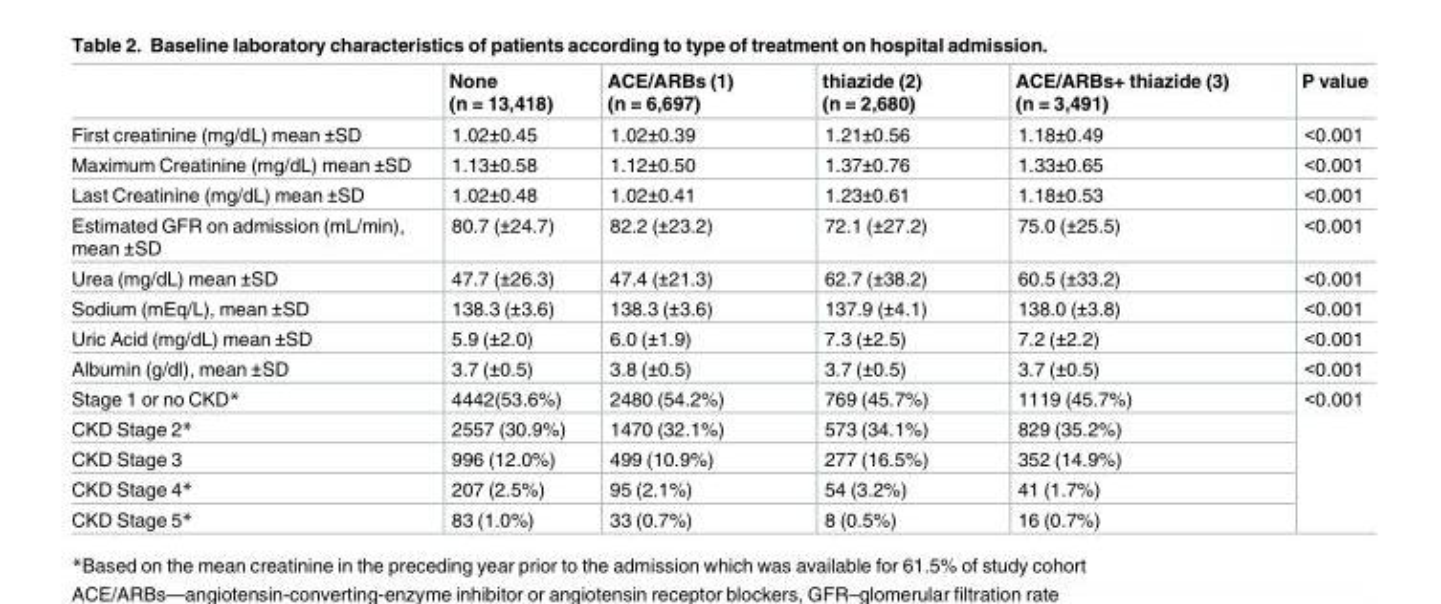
<table><thead><tr><td></td><td>None (n = 13,418)</td><td>ACE/ARBs (1) (n = 6,697)</td><td>thiazide (2) (n = 2,680)</td><td>ACE/ARBs+ thiazide (3) (n = 3,491)</td><td>P value</td></tr></thead><tbody><tr><td>First creatinine (mg/dL) mean ±SD</td><td>1.02±0.45</td><td>1.02±0.39</td><td>1.21±0.56</td><td>1.18±0.49</td><td>&lt;0.001</td></tr><tr><td>Maximum Creatinine (mg/dL) mean ±SD</td><td>1.13±0.58</td><td>1.12±0.50</td><td>1.37±0.76</td><td>1.33±0.65</td><td>&lt;0.001</td></tr><tr><td>Last Creatinine (mg/dL) mean ±SD</td><td>1.02±0.48</td><td>1.02±0.41</td><td>1.23±0.61</td><td>1.18±0.53</td><td>&lt;0.001</td></tr><tr><td>Estimated GFR on admission (mL/min), mean ±SD</td><td>80.7 (±24.7)</td><td>82.2 (±23.2)</td><td>72.1 (±27.2)</td><td>75.0 (±25.5)</td><td>&lt;0.001</td></tr><tr><td>Urea (mg/dL) mean ±SD</td><td>47.7 (±26.3)</td><td>47.4 (±21.3)</td><td>62.7 (±38.2)</td><td>60.5 (±33.2)</td><td>&lt;0.001</td></tr><tr><td>Sodium (mEq/L), mean ±SD</td><td>138.3 (±3.6)</td><td>138.3 (±3.6)</td><td>137.9 (±4.1)</td><td>138.0 (±3.8)</td><td>&lt;0.001</td></tr><tr><td>Uric Acid (mg/dL) mean ±SD</td><td>5.9 (±2.0)</td><td>6.0 (±1.9)</td><td>7.3 (±2.5)</td><td>7.2 (±2.2)</td><td>&lt;0.001</td></tr><tr><td>Albumin (g/dl), mean ±SD</td><td>3.7 (±0.5)</td><td>3.8 (±0.5)</td><td>3.7 (±0.5)</td><td>3.7 (±0.5)</td><td>&lt;0.001</td></tr><tr><td>Stage 1 or no CKD*</td><td>4442(53.6%)</td><td>2480 (54.2%)</td><td>769 (45.7%)</td><td>1119 (45.7%)</td><td rowspan="5">&lt;0.001</td></tr><tr><td>CKD Stage 2*</td><td>2557 (30.9%)</td><td>1470 (32.1%)</td><td>573 (34.1%)</td><td>829 (35.2%)</td></tr><tr><td>CKD Stage 3</td><td>996 (12.0%)</td><td>499 (10.9%)</td><td>277 (16.5%)</td><td>352 (14.9%)</td></tr><tr><td>CKD Stage 4*</td><td>207 (2.5%)</td><td>95 (2.1%)</td><td>54 (3.2%)</td><td>41 (1.7%)</td></tr><tr><td>CKD Stage 5*</td><td>83 (1.0%)</td><td>33 (0.7%)</td><td>8 (0.5%)</td><td>16 (0.7%)</td></tr></tbody></table>